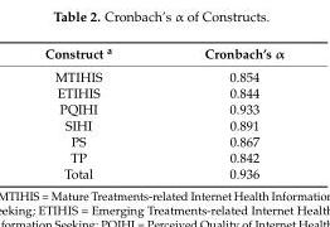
<table><thead><tr><td>Construct <sup>a</sup></td><td>Cronbach’s α</td></tr></thead><tbody><tr><td>MTIHIS</td><td>0.854</td></tr><tr><td>ETIHIS</td><td>0.844</td></tr><tr><td>PQIHI</td><td>0.933</td></tr><tr><td>SIHI</td><td>0.891</td></tr><tr><td>PS</td><td>0.867</td></tr><tr><td>TP</td><td>0.842</td></tr><tr><td>Total</td><td>0.936</td></tr></tbody></table>